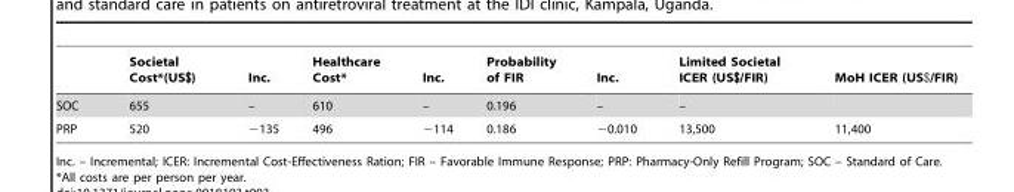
<table><thead><tr><td></td><td>Societal Cost*(US$)</td><td>Inc.</td><td>Healthcare Cost*</td><td>Inc.</td><td>Probability of FIR</td><td>Inc.</td><td>Limited Societal ICER (US$/FIR)</td><td>MoH ICER (US$/FIR)</td></tr></thead><tbody><tr><td>SOC</td><td>655</td><td>–</td><td>610</td><td>–</td><td>0.196</td><td>–</td><td>–</td><td></td></tr><tr><td>PRP</td><td>520</td><td>−135</td><td>496</td><td>−114</td><td>0.186</td><td>−0.010</td><td>13,500</td><td>11,400</td></tr></tbody></table>